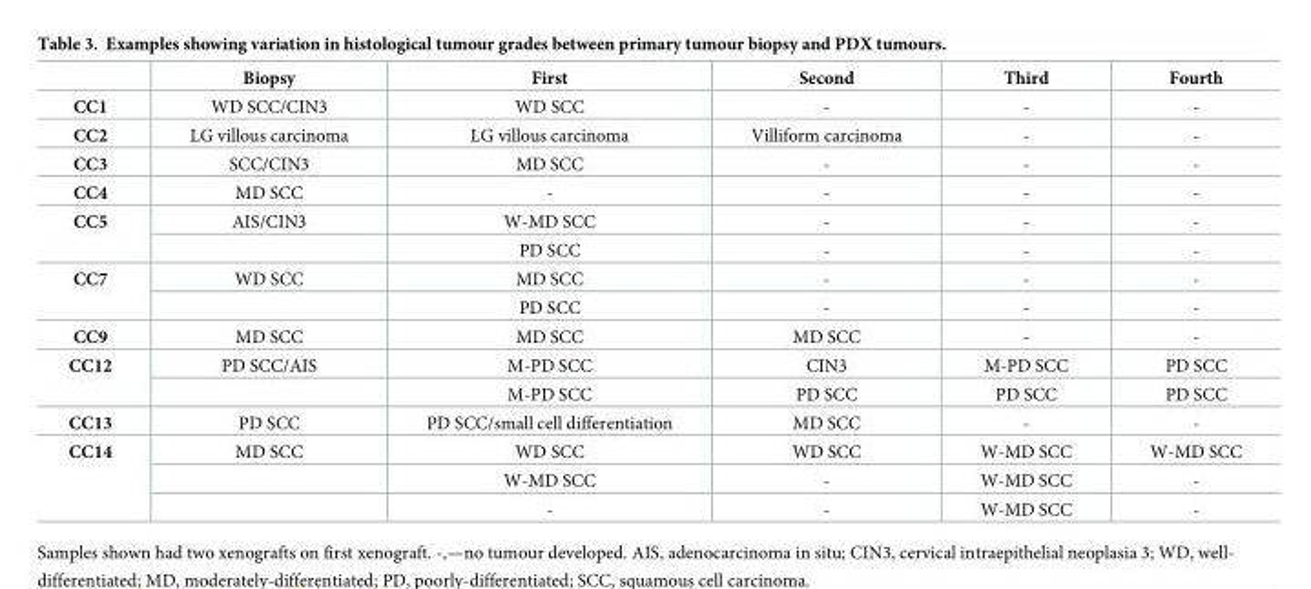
<table><thead><tr><td></td><td>Biopsy</td><td>First</td><td>Second</td><td>Third</td><td>Fourth</td></tr></thead><tbody><tr><td>CC1</td><td>WD SCC/CIN3</td><td>WD SCC</td><td>-</td><td>-</td><td>-</td></tr><tr><td>CC2</td><td>LG villous carcinoma</td><td>LG villous carcinoma</td><td>Villiform carcinoma</td><td>-</td><td>-</td></tr><tr><td>CC3</td><td>SCC/CIN3</td><td>MD SCC</td><td>-</td><td>-</td><td>-</td></tr><tr><td>CC4</td><td>MD SCC</td><td>-</td><td>-</td><td>-</td><td>-</td></tr><tr><td rowspan="2">CC5</td><td>AIS/CIN3</td><td>W-MD SCC</td><td>-</td><td>-</td><td>-</td></tr><tr><td></td><td>PD SCC</td><td>-</td><td>-</td><td>-</td></tr><tr><td rowspan="2">CC7</td><td>WD SCC</td><td>MD SCC</td><td>-</td><td>-</td><td>-</td></tr><tr><td></td><td>PD SCC</td><td>-</td><td>-</td><td>-</td></tr><tr><td>CC9</td><td>MD SCC</td><td>MD SCC</td><td>MD SCC</td><td>-</td><td>-</td></tr><tr><td rowspan="2">CC12</td><td>PD SCC/AIS</td><td>M-PD SCC</td><td>CIN3</td><td>M-PD SCC</td><td>PD SCC</td></tr><tr><td></td><td>M-PD SCC</td><td>PD SCC</td><td>PD SCC</td><td>PD SCC</td></tr><tr><td>CC13</td><td>PD SCC</td><td>PD SCC/small cell differentiation</td><td>MD SCC</td><td>-</td><td>-</td></tr><tr><td rowspan="3">CC14</td><td>MD SCC</td><td>WD SCC</td><td>WD SCC</td><td>W-MD SCC</td><td>W-MD SCC</td></tr><tr><td></td><td>W-MD SCC</td><td>-</td><td>W-MD SCC</td><td>-</td></tr><tr><td></td><td>-</td><td>-</td><td>W-MD SCC</td><td>-</td></tr></tbody></table>